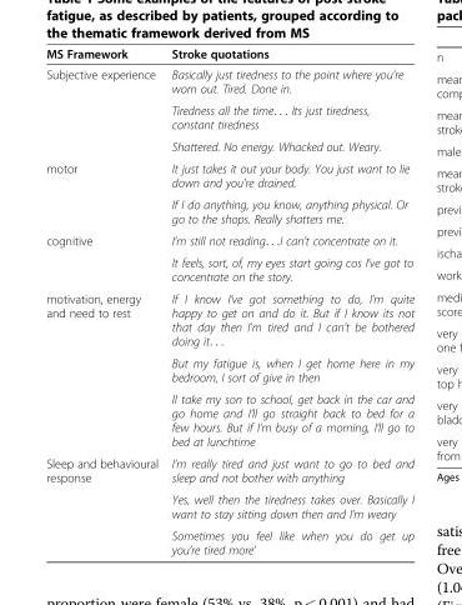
<table><thead><tr><td>MS Framework</td><td>Stroke quotations</td></tr></thead><tbody><tr><td rowspan="3">Subjective experience</td><td>Basically just tiredness to the point where you’re worn out. Tired. Done in.</td></tr><tr><td>Tiredness all the time. . . Its just tiredness, constant tiredness</td></tr><tr><td>Shattered. No energy. Whacked out. Weary.</td></tr><tr><td rowspan="2">motor</td><td>It just takes it out your body. You just want to lie down and you’re drained.</td></tr><tr><td>If I do anything, you know, anything physical. Or go to the shops. Really shatters me.</td></tr><tr><td rowspan="2">cognitive</td><td>I’m still not reading. . .I can’t concentrate on it.</td></tr><tr><td>It feels, sort, of, my eyes start going cos I’ve got to concentrate on the story.</td></tr><tr><td rowspan="3">motivation, energy and need to rest</td><td>If I know I’ve got something to do, I’m quite happy to get on and do it. But if I know its not that day then I’m tired and I can’t be bothered doing it. . .</td></tr><tr><td>But my fatigue is, when I get home here in my bedroom, I sort of give in then</td></tr><tr><td>ll take my son to school, get back in the car and go home and I’ll go straight back to bed for a few hours. But if I’m busy of a morning, I’ll go to bed at lunchtime</td></tr><tr><td rowspan="3">Sleep and behavioural response</td><td>I’m really tired and just want to go to bed and sleep and not bother with anything</td></tr><tr><td>Yes, well then the tiredness takes over. Basically I want to stay sitting down then and I’m weary</td></tr><tr><td>Sometimes you feel like when you do get up you’re tired more’</td></tr></tbody></table>